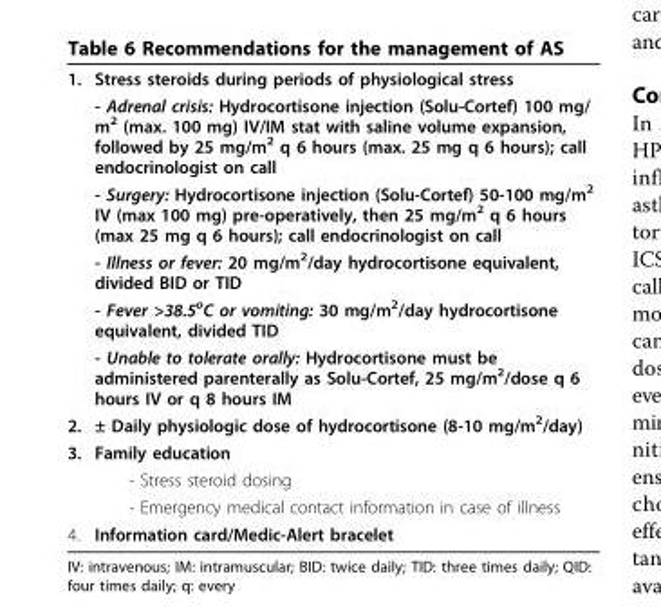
<table><tbody><tr><td rowspan="6">1.</td><td>Stress steroids during periods of physiological stress</td></tr><tr><td>- Adrenal crisis: Hydrocortisone injection (Solu-Cortef) 100 mg/ m<sup>2</sup> (max. 100 mg) IV/IM stat with saline volume expansion, followed by 25 mg/m<sup>2</sup> q 6 hours (max. 25 mg q 6 hours); call endocrinologist on call</td></tr><tr><td>- Surgery: Hydrocortisone injection (Solu-Cortef) 50-100 mg/m<sup>2</sup> IV (max 100 mg) pre-operatively, then 25 mg/m<sup>2</sup> q 6 hours (max 25 mg q 6 hours); call endocrinologist on call</td></tr><tr><td>- Illness or fever: 20 mg/m<sup>2</sup>/day hydrocortisone equivalent, divided BID or TID</td></tr><tr><td>- Fever &gt;38.5<sup>o</sup>C or vomiting: 30 mg/m<sup>2</sup>/day hydrocortisone equivalent, divided TID</td></tr><tr><td>- Unable to tolerate orally: Hydrocortisone must be administered parenterally as Solu-Cortef, 25 mg/m<sup>2</sup>/dose q 6 hours IV or q 8 hours IM</td></tr><tr><td>2.</td><td>± Daily physiologic dose of hydrocortisone (8-10 mg/m<sup>2</sup>/day)</td></tr><tr><td rowspan="3">3.</td><td>Family education</td></tr><tr><td>- Stress steroid dosing</td></tr><tr><td>- Emergency medical contact information in case of illness</td></tr><tr><td>4.</td><td>Information card/Medic-Alert bracelet</td></tr></tbody></table>